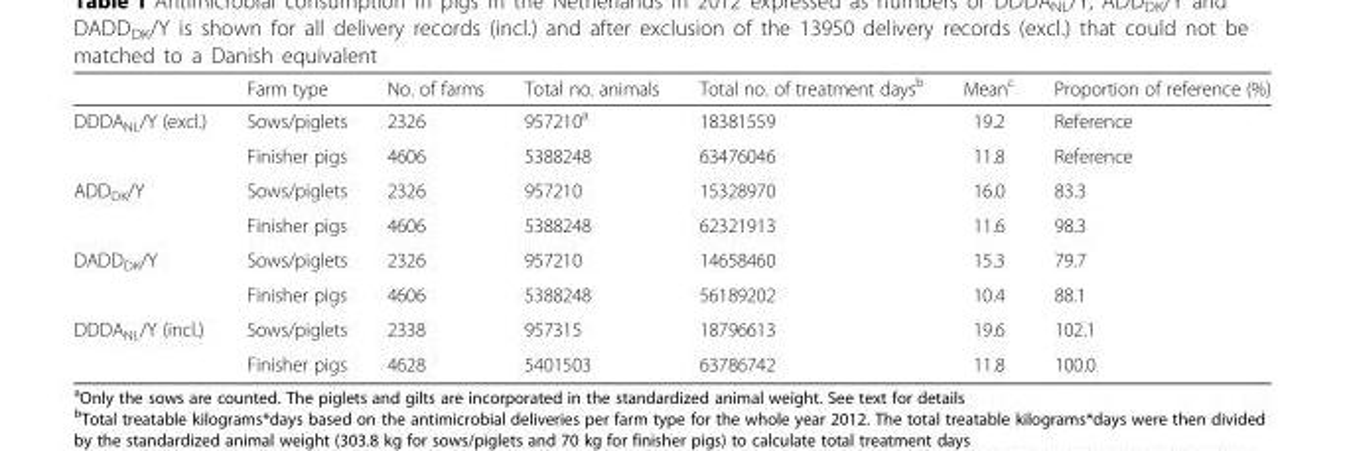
<table><thead><tr><td></td><td>Farm type</td><td>No. of farms</td><td>Total no. animals</td><td>Total no. of treatment days<sup>b</sup></td><td>Mean<sup>c</sup></td><td>Proportion of reference (%)</td></tr></thead><tbody><tr><td rowspan="2">DDDA<sub>NL</sub>/Y (excl.)</td><td>Sows/piglets</td><td>2326</td><td>957210<sup>a</sup></td><td>18381559</td><td>19.2</td><td>Reference</td></tr><tr><td>Finisher pigs</td><td>4606</td><td>5388248</td><td>63476046</td><td>11.8</td><td>Reference</td></tr><tr><td rowspan="2">ADD<sub>DK</sub>/Y</td><td>Sows/piglets</td><td>2326</td><td>957210</td><td>15328970</td><td>16.0</td><td>83.3</td></tr><tr><td>Finisher pigs</td><td>4606</td><td>5388248</td><td>62321913</td><td>11.6</td><td>98.3</td></tr><tr><td rowspan="2">DADD<sub>DK</sub>/Y</td><td>Sows/piglets</td><td>2326</td><td>957210</td><td>14658460</td><td>15.3</td><td>79.7</td></tr><tr><td>Finisher pigs</td><td>4606</td><td>5388248</td><td>56189202</td><td>10.4</td><td>88.1</td></tr><tr><td rowspan="2">DDDA<sub>NL</sub>/Y (incl.)</td><td>Sows/piglets</td><td>2338</td><td>957315</td><td>18796613</td><td>19.6</td><td>102.1</td></tr><tr><td>Finisher pigs</td><td>4628</td><td>5401503</td><td>63786742</td><td>11.8</td><td>100.0</td></tr></tbody></table>